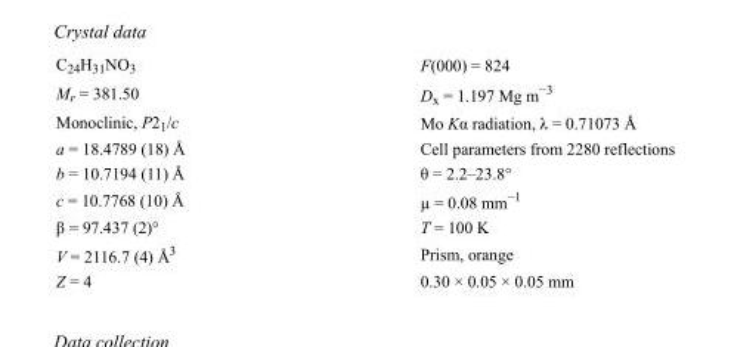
<table><tbody><tr><td>C<sub>24</sub>H<sub>31</sub>NO<sub>3</sub></td><td>F(000) = 824</td></tr><tr><td>M<sub>r</sub> = 381.50</td><td>D<sub>x</sub> = 1.197 Mg m<sup>−3</sup></td></tr><tr><td>Monoclinic, P2<sub>1</sub>/c</td><td>Mo Kα radiation, λ = 0.71073 Å</td></tr><tr><td>a = 18.4789 (18) Å</td><td>Cell parameters from 2280 reflections</td></tr><tr><td>b = 10.7194 (11) Å</td><td>θ = 2.2–23.8°</td></tr><tr><td>c = 10.7768 (10) Å</td><td>µ = 0.08 mm<sup>−1</sup></td></tr><tr><td>β = 97.437 (2)°</td><td>T = 100 K</td></tr><tr><td>V = 2116.7 (4) Å<sup>3</sup></td><td>Prism, orange</td></tr><tr><td>Z = 4</td><td>0.30 × 0.05 × 0.05 mm</td></tr></tbody></table>